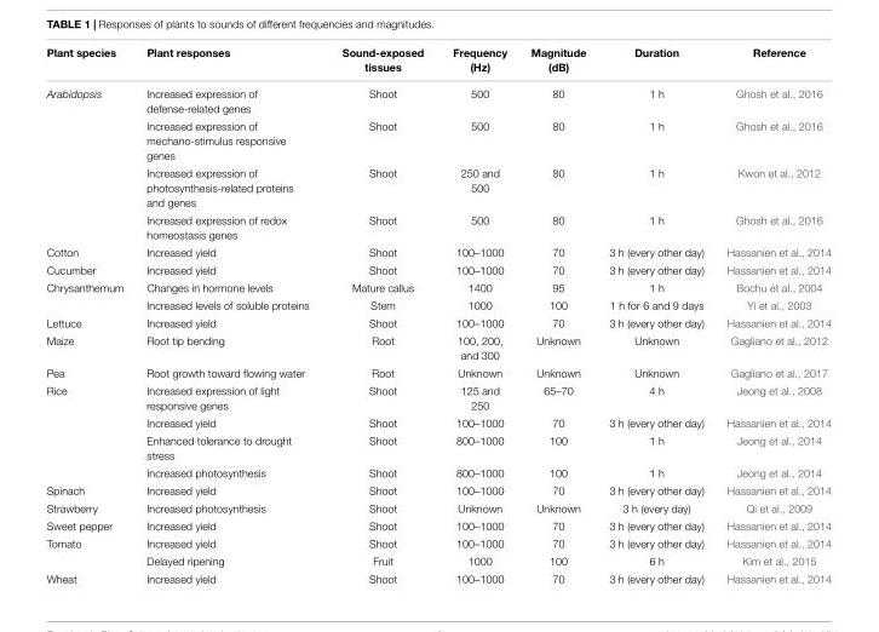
<table><thead><tr><td>Plant species</td><td>Plant responses</td><td>Sound-exposed tissues</td><td>Frequency (Hz)</td><td>Magnitude (dB)</td><td>Duration</td><td>Reference</td></tr></thead><tbody><tr><td rowspan="4">Arabidopsis</td><td>Increased expression of defense-related genes</td><td>Shoot</td><td>500</td><td>80</td><td>1 h</td><td>Ghosh et al., 2016</td></tr><tr><td>Increased expression of mechano-stimulus responsive genes</td><td>Shoot</td><td>500</td><td>80</td><td>1 h</td><td>Ghosh et al., 2016</td></tr><tr><td>Increased expression of photosynthesis-related proteins and genes</td><td>Shoot</td><td>250 and 500</td><td>80</td><td>1 h</td><td>Kwon et al., 2012</td></tr><tr><td>Increased expression of redox homeostasis genes</td><td>Shoot</td><td>500</td><td>80</td><td>1 h</td><td>Ghosh et al., 2016</td></tr><tr><td>Cotton</td><td>Increased yield</td><td>Shoot</td><td>100–1000</td><td>70</td><td>3 h (every other day)</td><td>Hassanien et al., 2014</td></tr><tr><td>Cucumber</td><td>Increased yield</td><td>Shoot</td><td>100–1000</td><td>70</td><td>3 h (every other day)</td><td>Hassanien et al., 2014</td></tr><tr><td rowspan="2">Chrysanthemum</td><td>Changes in hormone levels</td><td>Mature callus</td><td>1400</td><td>95</td><td>1 h</td><td>Bochu et al., 2004</td></tr><tr><td>Increased levels of soluble proteins</td><td>Stem</td><td>1000</td><td>100</td><td>1 h for 6 and 9 days</td><td>Yi et al., 2003</td></tr><tr><td>Lettuce</td><td>Increased yield</td><td>Shoot</td><td>100–1000</td><td>70</td><td>3 h (every other day)</td><td>Hassanien et al., 2014</td></tr><tr><td>Maize</td><td>Root tip bending</td><td>Root</td><td>100, 200, and 300</td><td>Unknown</td><td>Unknown</td><td>Gagliano et al., 2012</td></tr><tr><td>Pea</td><td>Root growth toward flowing water</td><td>Root</td><td>Unknown</td><td>Unknown</td><td>Unknown</td><td>Gagliano et al., 2017</td></tr><tr><td rowspan="4">Rice</td><td>Increased expression of light responsive genes</td><td>Shoot</td><td>125 and 250</td><td>65–70</td><td>4 h</td><td>Jeong et al., 2008</td></tr><tr><td>Increased yield</td><td>Shoot</td><td>100–1000</td><td>70</td><td>3 h (every other day)</td><td>Hassanien et al., 2014</td></tr><tr><td>Enhanced tolerance to drought stress</td><td>Shoot</td><td>800–1000</td><td>100</td><td>1 h</td><td>Jeong et al., 2014</td></tr><tr><td>Increased photosynthesis</td><td>Shoot</td><td>800–1000</td><td>100</td><td>1 h</td><td>Jeong et al., 2014</td></tr><tr><td>Spinach</td><td>Increased yield</td><td>Shoot</td><td>100–1000</td><td>70</td><td>3 h (every other day)</td><td>Hassanien et al., 2014</td></tr><tr><td>Strawberry</td><td>Increased photosynthesis</td><td>Shoot</td><td>Unknown</td><td>Unknown</td><td>3 h (every day)</td><td>Qi et al., 2009</td></tr><tr><td>Sweet pepper</td><td>Increased yield</td><td>Shoot</td><td>100–1000</td><td>70</td><td>3 h (every other day)</td><td>Hassanien et al., 2014</td></tr><tr><td rowspan="2">Tomato</td><td>Increased yield</td><td>Shoot</td><td>100–1000</td><td>70</td><td>3 h (every other day)</td><td>Hassanien et al., 2014</td></tr><tr><td>Delayed ripening</td><td>Fruit</td><td>1000</td><td>100</td><td>6 h</td><td>Kim et al., 2015</td></tr><tr><td>Wheat</td><td>Increased yield</td><td>Shoot</td><td>100–1000</td><td>70</td><td>3 h (every other day)</td><td>Hassanien et al., 2014</td></tr></tbody></table>